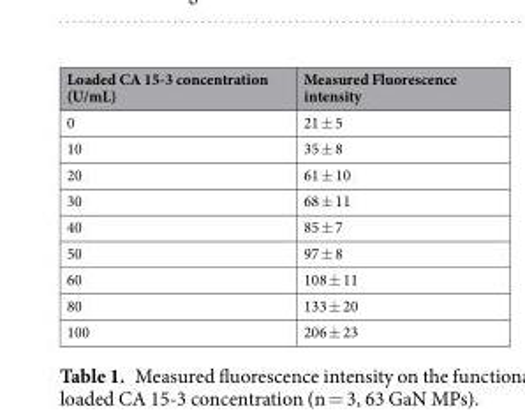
<table><thead><tr><td>Loaded CA 15-3 concentration (U/mL)</td><td>Measured Fluorescence intensity</td></tr></thead><tbody><tr><td>0</td><td>21 ± 5</td></tr><tr><td>10</td><td>35 ± 8</td></tr><tr><td>20</td><td>61 ± 10</td></tr><tr><td>30</td><td>68 ± 11</td></tr><tr><td>40</td><td>85 ± 7</td></tr><tr><td>50</td><td>97 ± 8</td></tr><tr><td>60</td><td>108 ± 11</td></tr><tr><td>80</td><td>133 ± 20</td></tr><tr><td>100</td><td>206 ± 23</td></tr></tbody></table>